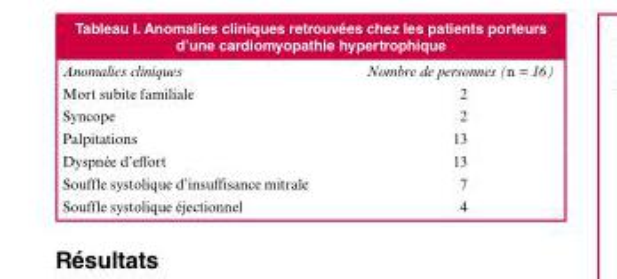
<table><thead><tr><td>Anomalies cliniques</td><td>Nombre de personnes (n = 16)</td></tr></thead><tbody><tr><td>Mort subite familiale</td><td>2</td></tr><tr><td>Syncope</td><td>2</td></tr><tr><td>Palpitations</td><td>13</td></tr><tr><td>Dyspnée d’effort</td><td>13</td></tr><tr><td>Souffle systolique d’insuffisance mitrale</td><td>7</td></tr><tr><td>Souffle systolique éjectionnel</td><td>4</td></tr></tbody></table>